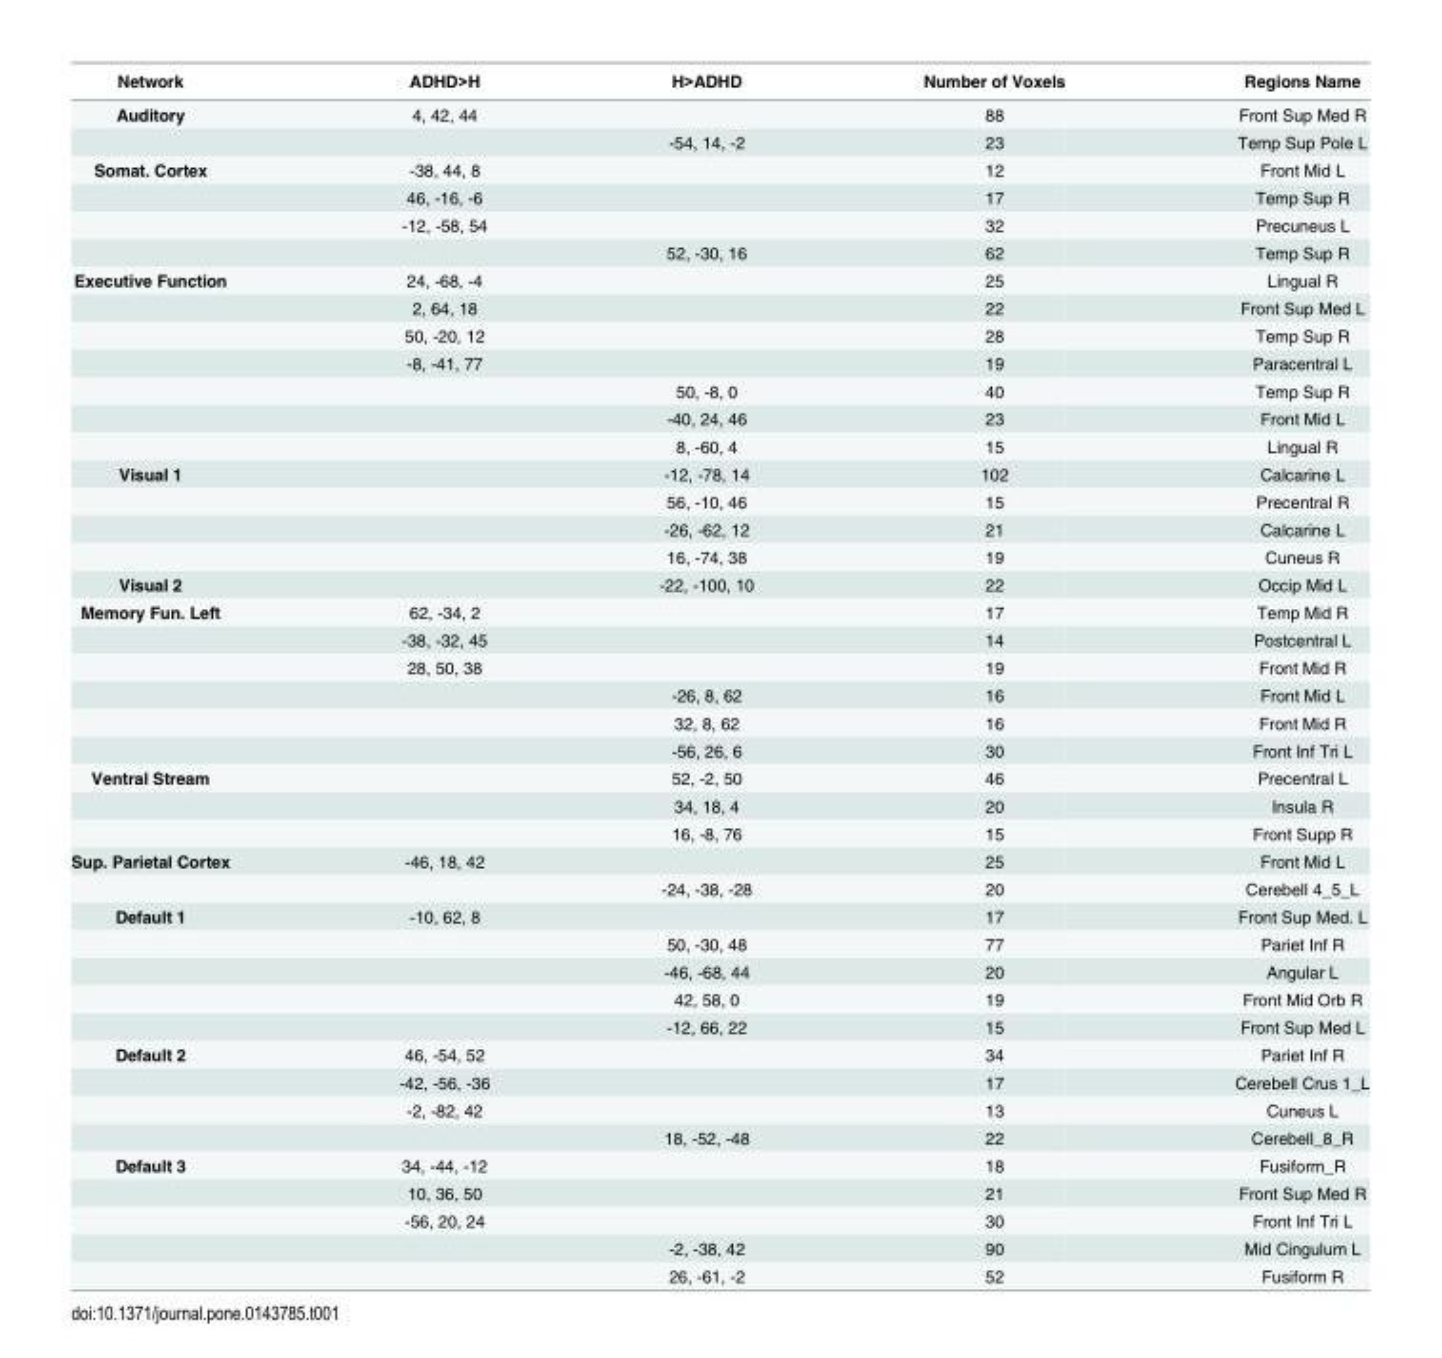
<table><thead><tr><td>Network</td><td>ADHD&gt;H</td><td>H&gt;ADHD</td><td>Number of Voxels</td><td>Regions Name</td></tr></thead><tbody><tr><td rowspan="2">Auditory</td><td>4, 42, 44</td><td></td><td>88</td><td>Front Sup Med R</td></tr><tr><td></td><td>-54, 14, -2</td><td>23</td><td>Temp Sup Pole L</td></tr><tr><td rowspan="4">Somat. Cortex</td><td>-38, 44, 8</td><td></td><td>12</td><td>Front Mid L</td></tr><tr><td>46, -16, -6</td><td></td><td>17</td><td>Temp Sup R</td></tr><tr><td>-12, -58, 54</td><td></td><td>32</td><td>Precuneus L</td></tr><tr><td></td><td>52, -30, 16</td><td>62</td><td>Temp Sup R</td></tr><tr><td rowspan="7">Executive Function</td><td>24, -68, -4</td><td></td><td>25</td><td>Lingual R</td></tr><tr><td>2, 64, 18</td><td></td><td>22</td><td>Front Sup Med L</td></tr><tr><td>50, -20, 12</td><td></td><td>28</td><td>Temp Sup R</td></tr><tr><td>-8, -41, 77</td><td></td><td>19</td><td>Paracentral L</td></tr><tr><td></td><td>50, -8, 0</td><td>40</td><td>Temp Sup R</td></tr><tr><td></td><td>-40, 24, 46</td><td>23</td><td>Front Mid L</td></tr><tr><td></td><td>8, -60, 4</td><td>15</td><td>Lingual R</td></tr><tr><td rowspan="4">Visual 1</td><td></td><td>-12, -78, 14</td><td>102</td><td>Calcarine L</td></tr><tr><td></td><td>56, -10, 46</td><td>15</td><td>Precentral R</td></tr><tr><td></td><td>-26, -62, 12</td><td>21</td><td>Calcarine L</td></tr><tr><td></td><td>16, -74, 38</td><td>19</td><td>Cuneus R</td></tr><tr><td>Visual 2</td><td></td><td>-22, -100, 10</td><td>22</td><td>Occip Mid L</td></tr><tr><td rowspan="6">Memory Fun. Left</td><td>62, -34, 2</td><td></td><td>17</td><td>Temp Mid R</td></tr><tr><td>-38, -32, 45</td><td></td><td>14</td><td>Postcentral L</td></tr><tr><td>28, 50, 38</td><td></td><td>19</td><td>Front Mid R</td></tr><tr><td></td><td>-26, 8, 62</td><td>16</td><td>Front Mid L</td></tr><tr><td></td><td>32, 8, 62</td><td>16</td><td>Front Mid R</td></tr><tr><td></td><td>-56, 26, 6</td><td>30</td><td>Front Inf Tri L</td></tr><tr><td rowspan="3">Ventral Stream</td><td></td><td>52, -2, 50</td><td>46</td><td>Precentral L</td></tr><tr><td></td><td>34, 18, 4</td><td>20</td><td>Insula R</td></tr><tr><td></td><td>16, -8, 76</td><td>15</td><td>Front Supp R</td></tr><tr><td rowspan="2">Sup. Parietal Cortex</td><td>-46, 18, 42</td><td></td><td>25</td><td>Front Mid L</td></tr><tr><td></td><td>-24, -38, -28</td><td>20</td><td>Cerebell 4_5_L</td></tr><tr><td rowspan="5">Default 1</td><td>-10, 62, 8</td><td></td><td>17</td><td>Front Sup Med. L</td></tr><tr><td></td><td>50, -30, 48</td><td>77</td><td>Pariet Inf R</td></tr><tr><td></td><td>-46, -68, 44</td><td>20</td><td>Angular L</td></tr><tr><td></td><td>42, 58, 0</td><td>19</td><td>Front Mid Orb R</td></tr><tr><td></td><td>-12, 66, 22</td><td>15</td><td>Front Sup Med L</td></tr><tr><td rowspan="4">Default 2</td><td>46, -54, 52</td><td></td><td>34</td><td>Pariet Inf R</td></tr><tr><td>-42, -56, -36</td><td></td><td>17</td><td>Cerebell Crus 1_L</td></tr><tr><td>-2, -82, 42</td><td></td><td>13</td><td>Cuneus L</td></tr><tr><td></td><td>18, -52, -48</td><td>22</td><td>Cerebell_8_R</td></tr><tr><td rowspan="5">Default 3</td><td>34, -44, -12</td><td></td><td>18</td><td>Fusiform_R</td></tr><tr><td>10, 36, 50</td><td></td><td>21</td><td>Front Sup Med R</td></tr><tr><td>-56, 20, 24</td><td></td><td>30</td><td>Front Inf Tri L</td></tr><tr><td></td><td>-2, -38, 42</td><td>90</td><td>Mid Cingulum L</td></tr><tr><td></td><td>26, -61, -2</td><td>52</td><td>Fusiform R</td></tr></tbody></table>